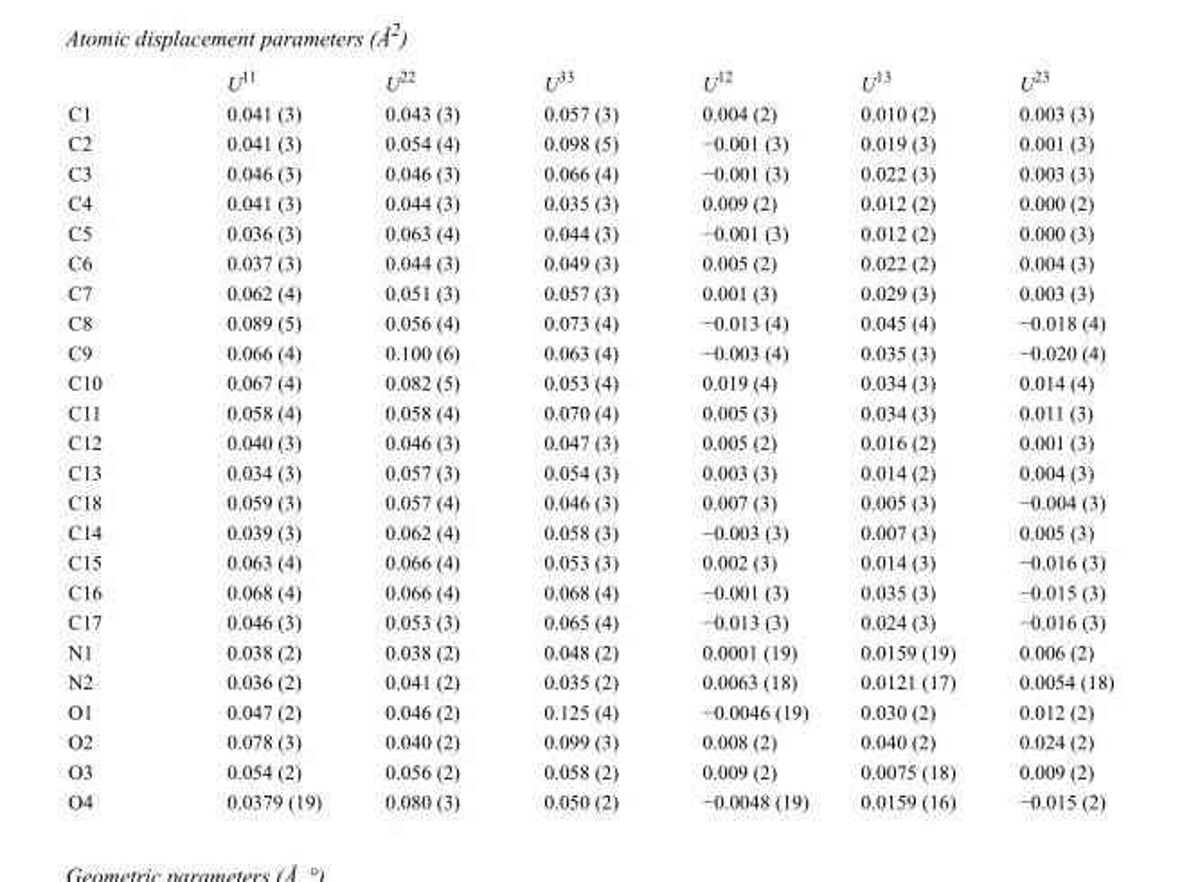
<table><thead><tr><td></td><td>U<sup>11</sup></td><td>U<sup>22</sup></td><td>U<sup>33</sup></td><td>U<sup>12</sup></td><td>U<sup>13</sup></td><td>U<sup>23</sup></td></tr></thead><tbody><tr><td>C1</td><td>0.041 (3)</td><td>0.043 (3)</td><td>0.057 (3)</td><td>0.004 (2)</td><td>0.010 (2)</td><td>0.003 (3)</td></tr><tr><td>C2</td><td>0.041 (3)</td><td>0.054 (4)</td><td>0.098 (5)</td><td>−0.001 (3)</td><td>0.019 (3)</td><td>0.001 (3)</td></tr><tr><td>C3</td><td>0.046 (3)</td><td>0.046 (3)</td><td>0.066 (4)</td><td>−0.001 (3)</td><td>0.022 (3)</td><td>0.003 (3)</td></tr><tr><td>C4</td><td>0.041 (3)</td><td>0.044 (3)</td><td>0.035 (3)</td><td>0.009 (2)</td><td>0.012 (2)</td><td>0.000 (2)</td></tr><tr><td>C5</td><td>0.036 (3)</td><td>0.063 (4)</td><td>0.044 (3)</td><td>−0.001 (3)</td><td>0.012 (2)</td><td>0.000 (3)</td></tr><tr><td>C6</td><td>0.037 (3)</td><td>0.044 (3)</td><td>0.049 (3)</td><td>0.005 (2)</td><td>0.022 (2)</td><td>0.004 (3)</td></tr><tr><td>C7</td><td>0.062 (4)</td><td>0.051 (3)</td><td>0.057 (3)</td><td>0.001 (3)</td><td>0.029 (3)</td><td>0.003 (3)</td></tr><tr><td>C8</td><td>0.089 (5)</td><td>0.056 (4)</td><td>0.073 (4)</td><td>−0.013 (4)</td><td>0.045 (4)</td><td>−0.018 (4)</td></tr><tr><td>C9</td><td>0.066 (4)</td><td>0.100 (6)</td><td>0.063 (4)</td><td>−0.003 (4)</td><td>0.035 (3)</td><td>−0.020 (4)</td></tr><tr><td>C10</td><td>0.067 (4)</td><td>0.082 (5)</td><td>0.053 (4)</td><td>0.019 (4)</td><td>0.034 (3)</td><td>0.014 (4)</td></tr><tr><td>C11</td><td>0.058 (4)</td><td>0.058 (4)</td><td>0.070 (4)</td><td>0.005 (3)</td><td>0.034 (3)</td><td>0.011 (3)</td></tr><tr><td>C12</td><td>0.040 (3)</td><td>0.046 (3)</td><td>0.047 (3)</td><td>0.005 (2)</td><td>0.016 (2)</td><td>0.001 (3)</td></tr><tr><td>C13</td><td>0.034 (3)</td><td>0.057 (3)</td><td>0.054 (3)</td><td>0.003 (3)</td><td>0.014 (2)</td><td>0.004 (3)</td></tr><tr><td>C18</td><td>0.059 (3)</td><td>0.057 (4)</td><td>0.046 (3)</td><td>0.007 (3)</td><td>0.005 (3)</td><td>−0.004 (3)</td></tr><tr><td>C14</td><td>0.039 (3)</td><td>0.062 (4)</td><td>0.058 (3)</td><td>−0.003 (3)</td><td>0.007 (3)</td><td>0.005 (3)</td></tr><tr><td>C15</td><td>0.063 (4)</td><td>0.066 (4)</td><td>0.053 (3)</td><td>0.002 (3)</td><td>0.014 (3)</td><td>−0.016 (3)</td></tr><tr><td>C16</td><td>0.068 (4)</td><td>0.066 (4)</td><td>0.068 (4)</td><td>−0.001 (3)</td><td>0.035 (3)</td><td>−0.015 (3)</td></tr><tr><td>C17</td><td>0.046 (3)</td><td>0.053 (3)</td><td>0.065 (4)</td><td>−0.013 (3)</td><td>0.024 (3)</td><td>−0.016 (3)</td></tr><tr><td>N1</td><td>0.038 (2)</td><td>0.038 (2)</td><td>0.048 (2)</td><td>0.0001 (19)</td><td>0.0159 (19)</td><td>0.006 (2)</td></tr><tr><td>N2</td><td>0.036 (2)</td><td>0.041 (2)</td><td>0.035 (2)</td><td>0.0063 (18)</td><td>0.0121 (17)</td><td>0.0054 (18)</td></tr><tr><td>O1</td><td>0.047 (2)</td><td>0.046 (2)</td><td>0.125 (4)</td><td>−0.0046 (19)</td><td>0.030 (2)</td><td>0.012 (2)</td></tr><tr><td>O2</td><td>0.078 (3)</td><td>0.040 (2)</td><td>0.099 (3)</td><td>0.008 (2)</td><td>0.040 (2)</td><td>0.024 (2)</td></tr><tr><td>O3</td><td>0.054 (2)</td><td>0.056 (2)</td><td>0.058 (2)</td><td>0.009 (2)</td><td>0.0075 (18)</td><td>0.009 (2)</td></tr><tr><td>O4</td><td>0.0379 (19)</td><td>0.080 (3)</td><td>0.050 (2)</td><td>−0.0048 (19)</td><td>0.0159 (16)</td><td>−0.015 (2)</td></tr></tbody></table>